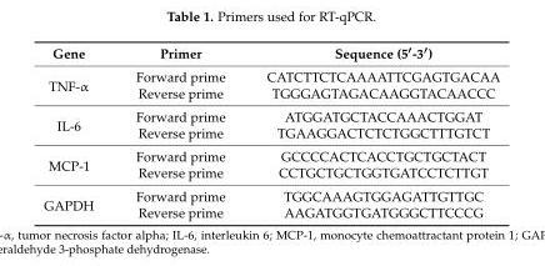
<table><thead><tr><td>Gene</td><td>Primer</td><td>Sequence (5′-3′)</td></tr></thead><tbody><tr><td rowspan="2">TNF-α</td><td>Forward prime</td><td>CATCTTCTCAAAATTCGAGTGACAA</td></tr><tr><td>Reverse prime</td><td>TGGGAGTAGACAAGGTACAACCC</td></tr><tr><td rowspan="2">IL-6</td><td>Forward prime</td><td>ATGGATGCTACCAAACTGGAT</td></tr><tr><td>Reverse prime</td><td>TGAAGGACTCTCTGGCTTTGTCT</td></tr><tr><td rowspan="2">MCP-1</td><td>Forward prime</td><td>GCCCCACTCACCTGCTGCTACT</td></tr><tr><td>Reverse prime</td><td>CCTGCTGCTGGTGATCCTCTTGT</td></tr><tr><td rowspan="2">GAPDH</td><td>Forward prime</td><td>TGGCAAAGTGGAGATTGTTGC</td></tr><tr><td>Reverse prime</td><td>AAGATGGTGATGGGCTTCCCG</td></tr></tbody></table>